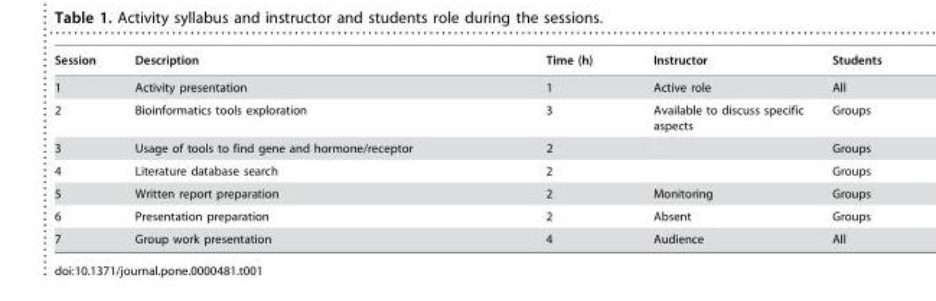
<table><thead><tr><td>Session</td><td>Description</td><td>Time (h)</td><td>Instructor</td><td>Students</td></tr></thead><tbody><tr><td>1</td><td>Activity presentation</td><td>1</td><td>Active role</td><td>All</td></tr><tr><td>2</td><td>Bioinformatics tools exploration</td><td>3</td><td>Available to discuss specific aspects</td><td>Groups</td></tr><tr><td>3</td><td>Usage of tools to find gene and hormone/receptor</td><td>2</td><td></td><td>Groups</td></tr><tr><td>4</td><td>Literature database search</td><td>2</td><td></td><td>Groups</td></tr><tr><td>5</td><td>Written report preparation</td><td>2</td><td>Monitoring</td><td>Groups</td></tr><tr><td>6</td><td>Presentation preparation</td><td>2</td><td>Absent</td><td>Groups</td></tr><tr><td>7</td><td>Group work presentation</td><td>4</td><td>Audience</td><td>All</td></tr></tbody></table>